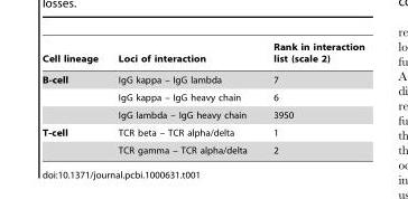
<table><thead><tr><td>Cell lineage</td><td>Loci of interaction</td><td>Rank in interaction list (scale 2)</td></tr></thead><tbody><tr><td rowspan="3">B-cell</td><td>IgG kappa – IgG lambda</td><td>7</td></tr><tr><td>IgG kappa – IgG heavy chain</td><td>6</td></tr><tr><td>IgG lambda – IgG heavy chain</td><td>3950</td></tr><tr><td rowspan="2">T-cell</td><td>TCR beta – TCR alpha/delta</td><td>1</td></tr><tr><td>TCR gamma – TCR alpha/delta</td><td>2</td></tr></tbody></table>